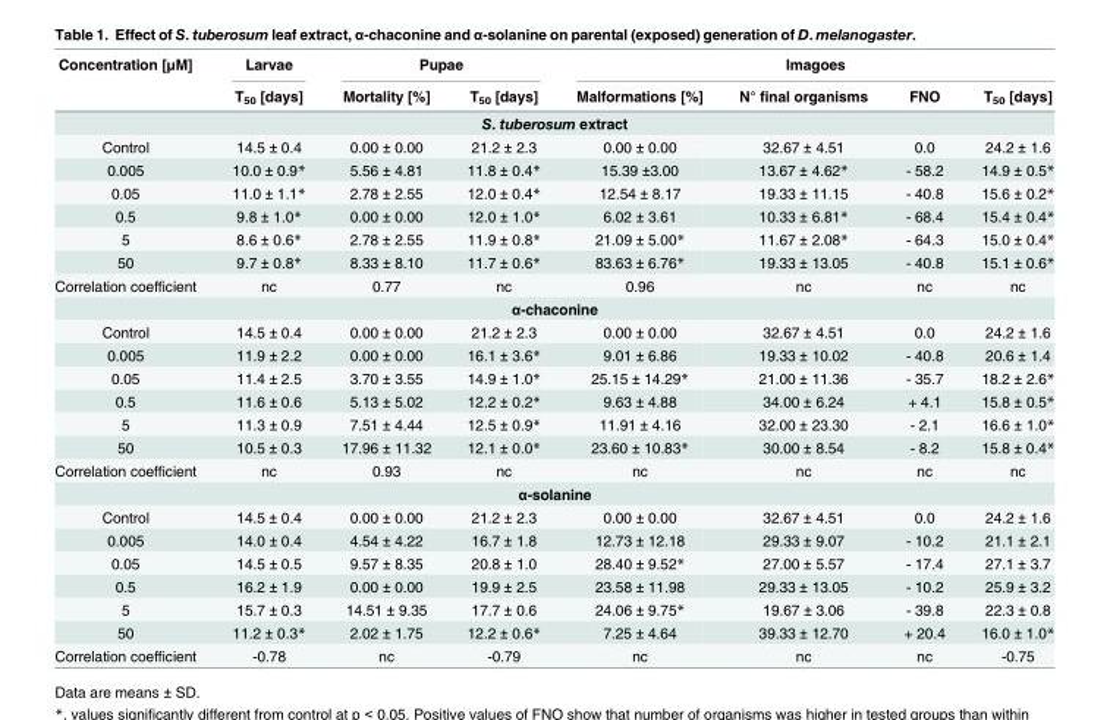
<table><thead><tr><td rowspan="2">Concentration [μM]</td><td rowspan="2">Larvae T<sub>50</sub> [days]</td><td colspan="2">Pupae</td><td colspan="4">Imagoes</td></tr><tr><td>Mortality [%]</td><td>T<sub>50</sub> [days]</td><td>Malformations [%]</td><td>N° final organisms</td><td>FNO</td><td>T<sub>50</sub> [days]</td></tr></thead><tbody><tr><td colspan="8">S. tuberosum extract</td></tr><tr><td>Control</td><td>14.5 ± 0.4</td><td>0.00 ± 0.00</td><td>21.2 ± 2.3</td><td>0.00 ± 0.00</td><td>32.67 ± 4.51</td><td>0.0</td><td>24.2 ± 1.6</td></tr><tr><td>0.005</td><td>10.0 ± 0.9*</td><td>5.56 ± 4.81</td><td>11.8 ± 0.4*</td><td>15.39 ±3.00</td><td>13.67 ± 4.62*</td><td>- 58.2</td><td>14.9 ± 0.5*</td></tr><tr><td>0.05</td><td>11.0 ± 1.1*</td><td>2.78 ± 2.55</td><td>12.0 ± 0.4*</td><td>12.54 ± 8.17</td><td>19.33 ± 11.15</td><td>- 40.8</td><td>15.6 ± 0.2*</td></tr><tr><td>0.5</td><td>9.8 ± 1.0*</td><td>0.00 ± 0.00</td><td>12.0 ± 1.0*</td><td>6.02 ± 3.61</td><td>10.33 ± 6.81*</td><td>- 68.4</td><td>15.4 ± 0.4*</td></tr><tr><td>5</td><td>8.6 ± 0.6*</td><td>2.78 ± 2.55</td><td>11.9 ± 0.8*</td><td>21.09 ± 5.00*</td><td>11.67 ± 2.08*</td><td>- 64.3</td><td>15.0 ± 0.4*</td></tr><tr><td>50</td><td>9.7 ± 0.8*</td><td>8.33 ± 8.10</td><td>11.7 ± 0.6*</td><td>83.63 ± 6.76*</td><td>19.33 ± 13.05</td><td>- 40.8</td><td>15.1 ± 0.6*</td></tr><tr><td>Correlation coefficient</td><td>nc</td><td>0.77</td><td>nc</td><td>0.96</td><td>nc</td><td>nc</td><td>nc</td></tr><tr><td colspan="8">α-chaconine</td></tr><tr><td>Control</td><td>14.5 ± 0.4</td><td>0.00 ± 0.00</td><td>21.2 ± 2.3</td><td>0.00 ± 0.00</td><td>32.67 ± 4.51</td><td>0.0</td><td>24.2 ± 1.6</td></tr><tr><td>0.005</td><td>11.9 ± 2.2</td><td>0.00 ± 0.00</td><td>16.1 ± 3.6*</td><td>9.01 ± 6.86</td><td>19.33 ± 10.02</td><td>- 40.8</td><td>20.6 ± 1.4</td></tr><tr><td>0.05</td><td>11.4 ± 2.5</td><td>3.70 ± 3.55</td><td>14.9 ± 1.0*</td><td>25.15 ± 14.29*</td><td>21.00 ± 11.36</td><td>- 35.7</td><td>18.2 ± 2.6*</td></tr><tr><td>0.5</td><td>11.6 ± 0.6</td><td>5.13 ± 5.02</td><td>12.2 ± 0.2*</td><td>9.63 ± 4.88</td><td>34.00 ± 6.24</td><td>+ 4.1</td><td>15.8 ± 0.5*</td></tr><tr><td>5</td><td>11.3 ± 0.9</td><td>7.51 ± 4.44</td><td>12.5 ± 0.9*</td><td>11.91 ± 4.16</td><td>32.00 ± 23.30</td><td>- 2.1</td><td>16.6 ± 1.0*</td></tr><tr><td>50</td><td>10.5 ± 0.3</td><td>17.96 ± 11.32</td><td>12.1 ± 0.0*</td><td>23.60 ± 10.83*</td><td>30.00 ± 8.54</td><td>- 8.2</td><td>15.8 ± 0.4*</td></tr><tr><td>Correlation coefficient</td><td>nc</td><td>0.93</td><td>nc</td><td>nc</td><td>nc</td><td>nc</td><td>nc</td></tr><tr><td colspan="8">α-solanine</td></tr><tr><td>Control</td><td>14.5 ± 0.4</td><td>0.00 ± 0.00</td><td>21.2 ± 2.3</td><td>0.00 ± 0.00</td><td>32.67 ± 4.51</td><td>0.0</td><td>24.2 ± 1.6</td></tr><tr><td>0.005</td><td>14.0 ± 0.4</td><td>4.54 ± 4.22</td><td>16.7 ± 1.8</td><td>12.73 ± 12.18</td><td>29.33 ± 9.07</td><td>- 10.2</td><td>21.1 ± 2.1</td></tr><tr><td>0.05</td><td>14.5 ± 0.5</td><td>9.57 ± 8.35</td><td>20.8 ± 1.0</td><td>28.40 ± 9.52*</td><td>27.00 ± 5.57</td><td>- 17.4</td><td>27.1 ± 3.7</td></tr><tr><td>0.5</td><td>16.2 ± 1.9</td><td>0.00 ± 0.00</td><td>19.9 ± 2.5</td><td>23.58 ± 11.98</td><td>29.33 ± 13.05</td><td>- 10.2</td><td>25.9 ± 3.2</td></tr><tr><td>5</td><td>15.7 ± 0.3</td><td>14.51 ± 9.35</td><td>17.7 ± 0.6</td><td>24.06 ± 9.75*</td><td>19.67 ± 3.06</td><td>- 39.8</td><td>22.3 ± 0.8</td></tr><tr><td>50</td><td>11.2 ± 0.3*</td><td>2.02 ± 1.75</td><td>12.2 ± 0.6*</td><td>7.25 ± 4.64</td><td>39.33 ± 12.70</td><td>+ 20.4</td><td>16.0 ± 1.0*</td></tr><tr><td>Correlation coefficient</td><td>-0.78</td><td>nc</td><td>-0.79</td><td>nc</td><td>nc</td><td>nc</td><td>-0.75</td></tr></tbody></table>